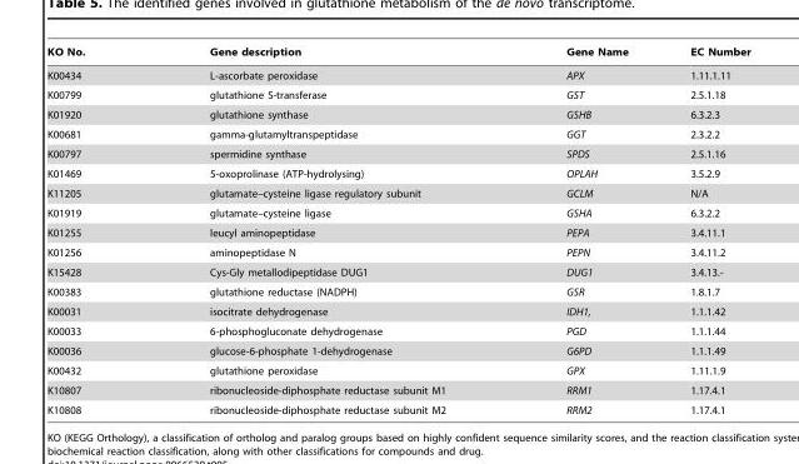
<table><thead><tr><td>KO No.</td><td>Gene description</td><td>Gene Name</td><td>EC Number</td></tr></thead><tbody><tr><td>K00434</td><td>L-ascorbate peroxidase</td><td>APX</td><td>1.11.1.11</td></tr><tr><td>K00799</td><td>glutathione S-transferase</td><td>GST</td><td>2.5.1.18</td></tr><tr><td>K01920</td><td>glutathione synthase</td><td>GSHB</td><td>6.3.2.3</td></tr><tr><td>K00681</td><td>gamma-glutamyltranspeptidase</td><td>GGT</td><td>2.3.2.2</td></tr><tr><td>K00797</td><td>spermidine synthase</td><td>SPDS</td><td>2.5.1.16</td></tr><tr><td>K01469</td><td>5-oxoprolinase (ATP-hydrolysing)</td><td>OPLAH</td><td>3.5.2.9</td></tr><tr><td>K11205</td><td>glutamate–cysteine ligase regulatory subunit</td><td>GCLM</td><td>N/A</td></tr><tr><td>K01919</td><td>glutamate–cysteine ligase</td><td>GSHA</td><td>6.3.2.2</td></tr><tr><td>K01255</td><td>leucyl aminopeptidase</td><td>PEPA</td><td>3.4.11.1</td></tr><tr><td>K01256</td><td>aminopeptidase N</td><td>PEPN</td><td>3.4.11.2</td></tr><tr><td>K15428</td><td>Cys-Gly metallodipeptidase DUG1</td><td>DUG1</td><td>3.4.13.-</td></tr><tr><td>K00383</td><td>glutathione reductase (NADPH)</td><td>GSR</td><td>1.8.1.7</td></tr><tr><td>K00031</td><td>isocitrate dehydrogenase</td><td>IDH1,</td><td>1.1.1.42</td></tr><tr><td>K00033</td><td>6-phosphogluconate dehydrogenase</td><td>PGD</td><td>1.1.1.44</td></tr><tr><td>K00036</td><td>glucose-6-phosphate 1-dehydrogenase</td><td>G6PD</td><td>1.1.1.49</td></tr><tr><td>K00432</td><td>glutathione peroxidase</td><td>GPX</td><td>1.11.1.9</td></tr><tr><td>K10807</td><td>ribonucleoside-diphosphate reductase subunit M1</td><td>RRM1</td><td>1.17.4.1</td></tr><tr><td>K10808</td><td>ribonucleoside-diphosphate reductase subunit M2</td><td>RRM2</td><td>1.17.4.1</td></tr></tbody></table>